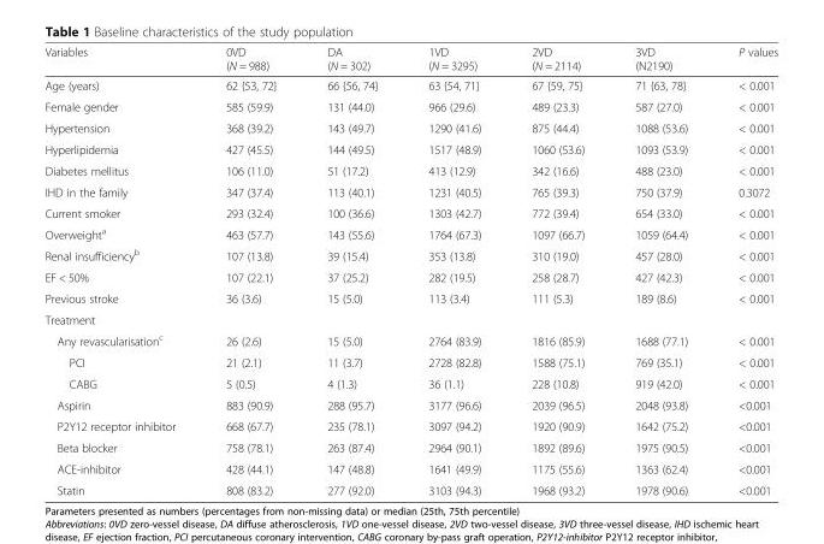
<table><thead><tr><td>Variables</td><td>0VD (N = 988)</td><td>DA (N = 302)</td><td>1VD (N = 3295)</td><td>2VD (N = 2114)</td><td>3VD (N2190)</td><td>P values</td></tr></thead><tbody><tr><td>Age (years)</td><td>62 {53, 72}</td><td>66 {56, 74}</td><td>63 {54, 71}</td><td>67 {59, 75}</td><td>71 {63, 78}</td><td>&lt; 0.001</td></tr><tr><td>Female gender</td><td>585 (59.9)</td><td>131 (44.0)</td><td>966 (29.6)</td><td>489 (23.3)</td><td>587 (27.0)</td><td>&lt; 0.001</td></tr><tr><td>Hypertension</td><td>368 (39.2)</td><td>143 (49.7)</td><td>1290 (41.6)</td><td>875 (44.4)</td><td>1088 (53.6)</td><td>&lt; 0.001</td></tr><tr><td>Hyperlipidemia</td><td>427 (45.5)</td><td>144 (49.5)</td><td>1517 (48.9)</td><td>1060 (53.6)</td><td>1093 (53.9)</td><td>&lt; 0.001</td></tr><tr><td>Diabetes mellitus</td><td>106 (11.0)</td><td>51 (17.2)</td><td>413 (12.9)</td><td>342 (16.6)</td><td>488 (23.0)</td><td>&lt; 0.001</td></tr><tr><td>IHD in the family</td><td>347 (37.4)</td><td>113 (40.1)</td><td>1231 (40.5)</td><td>765 (39.3)</td><td>750 (37.9)</td><td>0.3072</td></tr><tr><td>Current smoker</td><td>293 (32.4)</td><td>100 (36.6)</td><td>1303 (42.7)</td><td>772 (39.4)</td><td>654 (33.0)</td><td>&lt; 0.001</td></tr><tr><td>Overweight<sup>a</sup></td><td>463 (57.7)</td><td>143 (55.6)</td><td>1764 (67.3)</td><td>1097 (66.7)</td><td>1059 (64.4)</td><td>&lt; 0.001</td></tr><tr><td>Renal insufficiency<sup>b</sup></td><td>107 (13.8)</td><td>39 (15.4)</td><td>353 (13.8)</td><td>310 (19.0)</td><td>457 (28.0)</td><td>&lt; 0.001</td></tr><tr><td>EF &lt; 50%</td><td>107 (22.1)</td><td>37 (25.2)</td><td>282 (19.5)</td><td>258 (28.7)</td><td>427 (42.3)</td><td>&lt; 0.001</td></tr><tr><td>Previous stroke</td><td>36 (3.6)</td><td>15 (5.0)</td><td>113 (3.4)</td><td>111 (5.3)</td><td>189 (8.6)</td><td>&lt; 0.001</td></tr><tr><td colspan="7">Treatment</td></tr><tr><td>Any revascularisation<sup>c</sup></td><td>26 (2.6)</td><td>15 (5.0)</td><td>2764 (83.9)</td><td>1816 (85.9)</td><td>1688 (77.1)</td><td>&lt; 0.001</td></tr><tr><td>PCI</td><td>21 (2.1)</td><td>11 (3.7)</td><td>2728 (82.8)</td><td>1588 (75.1)</td><td>769 (35.1)</td><td>&lt; 0.001</td></tr><tr><td>CABG</td><td>5 (0.5)</td><td>4 (1.3)</td><td>36 (1.1)</td><td>228 (10.8)</td><td>919 (42.0)</td><td>&lt; 0.001</td></tr><tr><td>Aspirin</td><td>883 (90.9)</td><td>288 (95.7)</td><td>3177 (96.6)</td><td>2039 (96.5)</td><td>2048 (93.8)</td><td>&lt;0.001</td></tr><tr><td>P2Y12 receptor inhibitor</td><td>668 (67.7)</td><td>235 (78.1)</td><td>3097 (94.2)</td><td>1920 (90.9)</td><td>1642 (75.2)</td><td>&lt;0.001</td></tr><tr><td>Beta blocker</td><td>758 (78.1)</td><td>263 (87.4)</td><td>2964 (90.1)</td><td>1892 (89.6)</td><td>1975 (90.5)</td><td>&lt;0.001</td></tr><tr><td>ACE-inhibitor</td><td>428 (44.1)</td><td>147 (48.8)</td><td>1641 (49.9)</td><td>1175 (55.6)</td><td>1363 (62.4)</td><td>&lt;0.001</td></tr><tr><td>Statin</td><td>808 (83.2)</td><td>277 (92.0)</td><td>3103 (94.3)</td><td>1968 (93.2)</td><td>1978 (90.6)</td><td>&lt;0.001</td></tr></tbody></table>